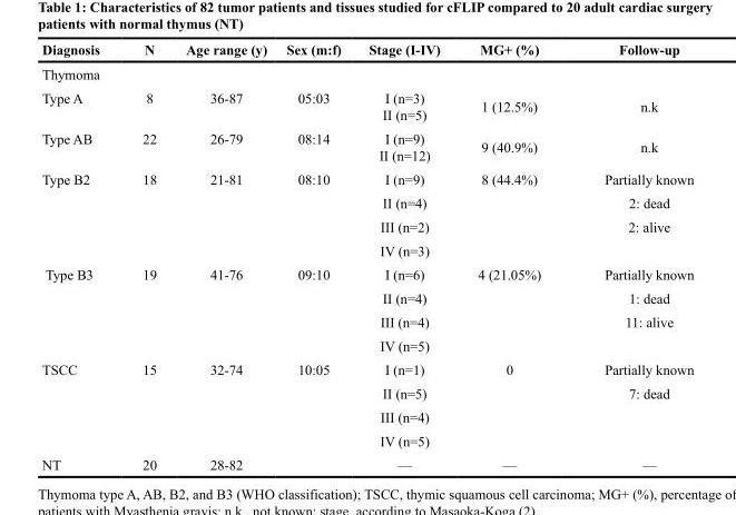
<table><thead><tr><td>Diagnosis</td><td>N</td><td>Age range (y)</td><td>Sex (m:f)</td><td>Stage (I-IV)</td><td>MG+ (%)</td><td>Follow-up</td></tr></thead><tbody><tr><td colspan="7">Thymoma</td></tr><tr><td>Type A</td><td>8</td><td>36-87</td><td>05:03</td><td>I (n=3) II (n=5)</td><td>1 (12.5%)</td><td>n.k</td></tr><tr><td>Type AB</td><td>22</td><td>26-79</td><td>08:14</td><td>I (n=9) II (n=12)</td><td>9 (40.9%)</td><td>n.k</td></tr><tr><td rowspan="4">Type B2</td><td>18</td><td>21-81</td><td>08:10</td><td>I (n=9)</td><td>8 (44.4%)</td><td>Partially known</td></tr><tr><td></td><td></td><td></td><td>II (n=4)</td><td></td><td>2: dead</td></tr><tr><td></td><td></td><td></td><td>III (n=2)</td><td></td><td>2: alive</td></tr><tr><td></td><td></td><td></td><td>IV (n=3)</td><td></td><td></td></tr><tr><td rowspan="4">Type B3</td><td>19</td><td>41-76</td><td>09:10</td><td>I (n=6)</td><td>4 (21.05%)</td><td>Partially known</td></tr><tr><td></td><td></td><td></td><td>II (n=4)</td><td></td><td>1: dead</td></tr><tr><td></td><td></td><td></td><td>III (n=4)</td><td></td><td>11: alive</td></tr><tr><td></td><td></td><td></td><td>IV (n=5)</td><td></td><td></td></tr><tr><td rowspan="4">TSCC</td><td>15</td><td>32-74</td><td>10:05</td><td>I (n=1)</td><td>0</td><td>Partially known</td></tr><tr><td></td><td></td><td></td><td>II (n=5)</td><td></td><td>7: dead</td></tr><tr><td></td><td></td><td></td><td>III (n=4)</td><td></td><td></td></tr><tr><td></td><td></td><td></td><td>IV (n=5)</td><td></td><td></td></tr><tr><td>NT</td><td>20</td><td>28-82</td><td></td><td>—</td><td>—</td><td>—</td></tr></tbody></table>